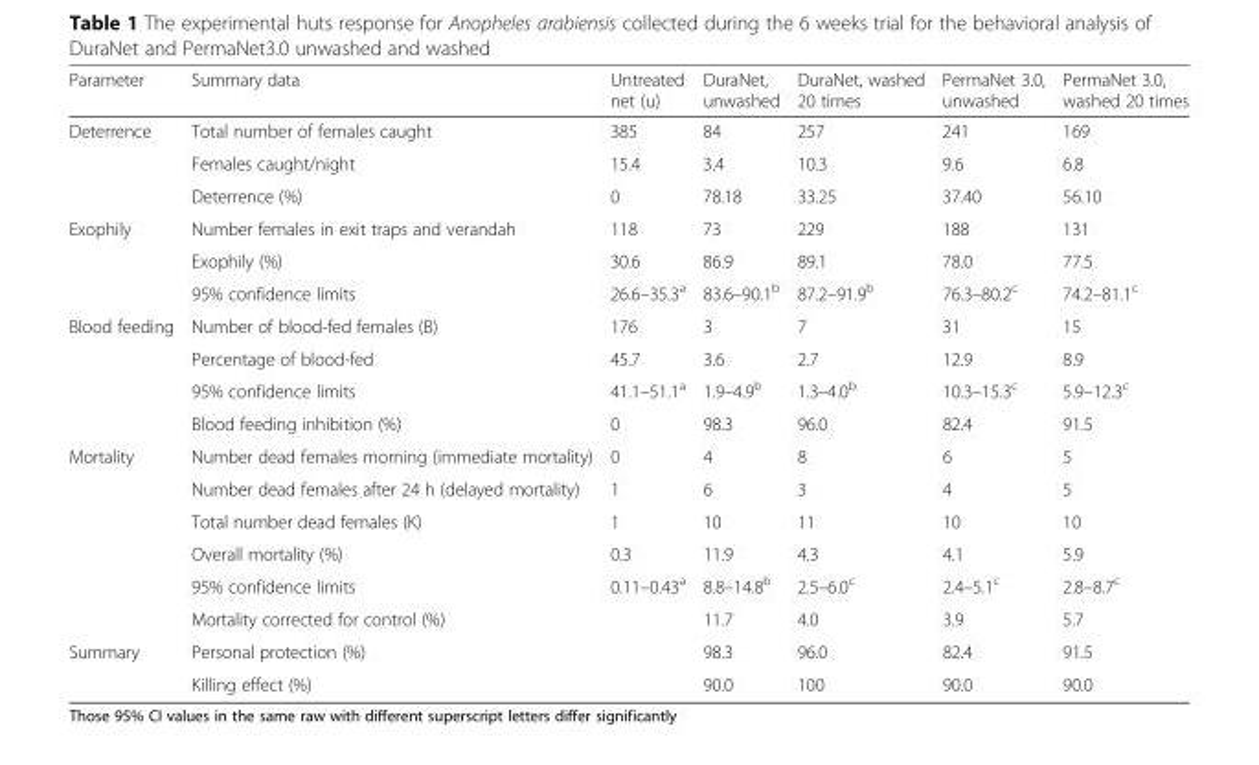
<table><thead><tr><td>Parameter</td><td>Summary data</td><td>Untreated net (u)</td><td>DuraNet, unwashed</td><td>DuraNet, washed 20 times</td><td>PermaNet 3.0, unwashed</td><td>PermaNet 3.0, washed 20 times</td></tr></thead><tbody><tr><td rowspan="3">Deterrence</td><td>Total number of females caught</td><td>385</td><td>84</td><td>257</td><td>241</td><td>169</td></tr><tr><td>Females caught/night</td><td>15.4</td><td>3.4</td><td>10.3</td><td>9.6</td><td>6.8</td></tr><tr><td>Deterrence (%)</td><td>0</td><td>78.18</td><td>33.25</td><td>37.40</td><td>56.10</td></tr><tr><td rowspan="3">Exophily</td><td>Number females in exit traps and verandah</td><td>118</td><td>73</td><td>229</td><td>188</td><td>131</td></tr><tr><td>Exophily (%)</td><td>30.6</td><td>86.9</td><td>89.1</td><td>78.0</td><td>77.5</td></tr><tr><td>95% confidence limits</td><td>26.6–35.3<sup>a</sup></td><td>83.6–90.1<sup>b</sup></td><td>87.2–91.9<sup>b</sup></td><td>76.3–80.2<sup>c</sup></td><td>74.2–81.1<sup>c</sup></td></tr><tr><td rowspan="4">Blood feeding</td><td>Number of blood-fed females (B)</td><td>176</td><td>3</td><td>7</td><td>31</td><td>15</td></tr><tr><td>Percentage of blood-fed</td><td>45.7</td><td>3.6</td><td>2.7</td><td>12.9</td><td>8.9</td></tr><tr><td>95% confidence limits</td><td>41.1–51.1<sup>a</sup></td><td>1.9–4.9<sup>b</sup></td><td>1.3–4.0<sup>b</sup></td><td>10.3–15.3<sup>c</sup></td><td>5.9–12.3<sup>c</sup></td></tr><tr><td>Blood feeding inhibition (%)</td><td>0</td><td>98.3</td><td>96.0</td><td>82.4</td><td>91.5</td></tr><tr><td rowspan="6">Mortality</td><td>Number dead females morning (immediate mortality)</td><td>0</td><td>4</td><td>8</td><td>6</td><td>5</td></tr><tr><td>Number dead females after 24 h (delayed mortality)</td><td>1</td><td>6</td><td>3</td><td>4</td><td>5</td></tr><tr><td>Total number dead females (K)</td><td>1</td><td>10</td><td>11</td><td>10</td><td>10</td></tr><tr><td>Overall mortality (%)</td><td>0.3</td><td>11.9</td><td>4.3</td><td>4.1</td><td>5.9</td></tr><tr><td>95% confidence limits</td><td>0.11–0.43<sup>a</sup></td><td>8.8–14.8<sup>b</sup></td><td>2.5–6.0<sup>c</sup></td><td>2.4–5.1<sup>c</sup></td><td>2.8–8.7<sup>c</sup></td></tr><tr><td>Mortality corrected for control (%)</td><td></td><td>11.7</td><td>4.0</td><td>3.9</td><td>5.7</td></tr><tr><td rowspan="2">Summary</td><td>Personal protection (%)</td><td></td><td>98.3</td><td>96.0</td><td>82.4</td><td>91.5</td></tr><tr><td>Killing effect (%)</td><td></td><td>90.0</td><td>100</td><td>90.0</td><td>90.0</td></tr></tbody></table>